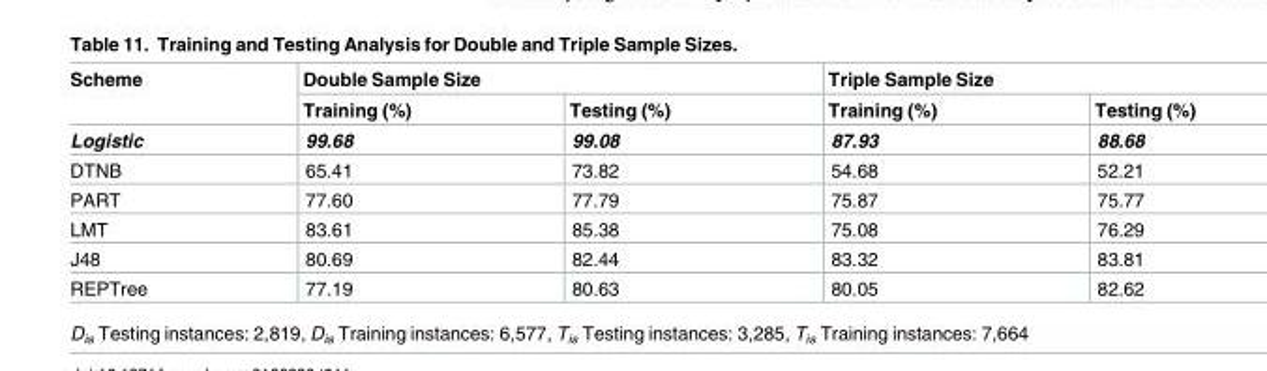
<table><thead><tr><td rowspan="2">Scheme</td><td colspan="2">Double Sample Size</td><td colspan="2">Triple Sample Size</td></tr><tr><td>Training (%)</td><td>Testing (%)</td><td>Training (%)</td><td>Testing (%)</td></tr></thead><tbody><tr><td>Logistic</td><td>99.68</td><td>99.08</td><td>87.93</td><td>88.68</td></tr><tr><td>DTNB</td><td>65.41</td><td>73.82</td><td>54.68</td><td>52.21</td></tr><tr><td>PART</td><td>77.60</td><td>77.79</td><td>75.87</td><td>75.77</td></tr><tr><td>LMT</td><td>83.61</td><td>85.38</td><td>75.08</td><td>76.29</td></tr><tr><td>J48</td><td>80.69</td><td>82.44</td><td>83.32</td><td>83.81</td></tr><tr><td>REPTree</td><td>77.19</td><td>80.63</td><td>80.05</td><td>82.62</td></tr></tbody></table>